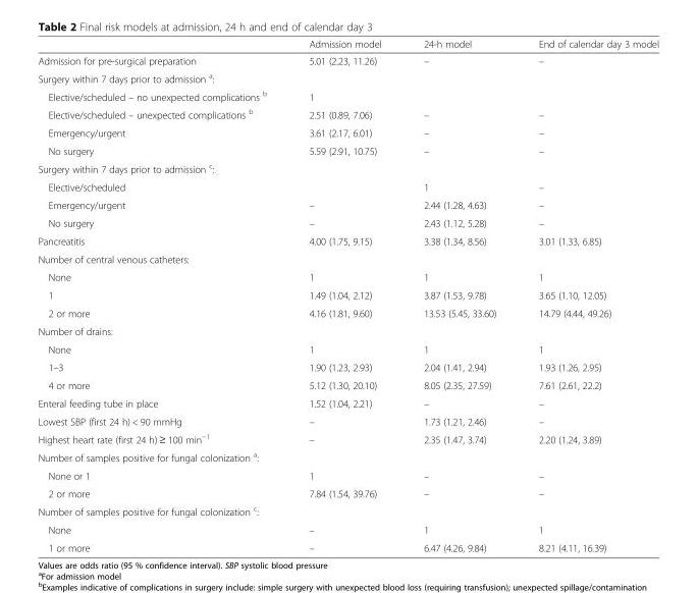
<table><thead><tr><td></td><td>Admission model</td><td>24-h model</td><td>End of calendar day 3 model</td></tr></thead><tbody><tr><td>Admission for pre-surgical preparation</td><td>5.01 (2.23, 11.26)</td><td>–</td><td>–</td></tr><tr><td colspan="4">Surgery within 7 days prior to admission <sup>a</sup>:</td></tr><tr><td>Elective/scheduled – no unexpected complications <sup>b</sup></td><td>1</td><td></td><td></td></tr><tr><td>Elective/scheduled – unexpected complications <sup>b</sup></td><td>2.51 (0.89, 7.06)</td><td>–</td><td>–</td></tr><tr><td>Emergency/urgent</td><td>3.61 (2.17, 6.01)</td><td>–</td><td>–</td></tr><tr><td>No surgery</td><td>5.59 (2.91, 10.75)</td><td>–</td><td>–</td></tr><tr><td colspan="4">Surgery within 7 days prior to admission <sup>c</sup>:</td></tr><tr><td>Elective/scheduled</td><td></td><td>1</td><td>–</td></tr><tr><td>Emergency/urgent</td><td>–</td><td>2.44 (1.28, 4.63)</td><td>–</td></tr><tr><td>No surgery</td><td>–</td><td>2.43 (1.12, 5.28)</td><td>–</td></tr><tr><td>Pancreatitis</td><td>4.00 (1.75, 9.15)</td><td>3.38 (1.34, 8.56)</td><td>3.01 (1.33, 6.85)</td></tr><tr><td colspan="4">Number of central venous catheters:</td></tr><tr><td>None</td><td>1</td><td>1</td><td>1</td></tr><tr><td>1</td><td>1.49 (1.04, 2.12)</td><td>3.87 (1.53, 9.78)</td><td>3.65 (1.10, 12.05)</td></tr><tr><td>2 or more</td><td>4.16 (1.81, 9.60)</td><td>13.53 (5.45, 33.60)</td><td>14.79 (4.44, 49.26)</td></tr><tr><td colspan="4">Number of drains:</td></tr><tr><td>None</td><td>1</td><td>1</td><td>1</td></tr><tr><td>1–3</td><td>1.90 (1.23, 2.93)</td><td>2.04 (1.41, 2.94)</td><td>1.93 (1.26, 2.95)</td></tr><tr><td>4 or more</td><td>5.12 (1.30, 20.10)</td><td>8.05 (2.35, 27.59)</td><td>7.61 (2.61, 22.2)</td></tr><tr><td>Enteral feeding tube in place</td><td>1.52 (1.04, 2.21)</td><td>–</td><td>–</td></tr><tr><td>Lowest SBP (first 24 h) &lt; 90 mmHg</td><td>–</td><td>1.73 (1.21, 2.46)</td><td>–</td></tr><tr><td>Highest heart rate (first 24 h) ≥ 100 min<sup>−1</sup></td><td>–</td><td>2.35 (1.47, 3.74)</td><td>2.20 (1.24, 3.89)</td></tr><tr><td colspan="4">Number of samples positive for fungal colonization <sup>a</sup>:</td></tr><tr><td>None or 1</td><td>1</td><td>–</td><td>–</td></tr><tr><td>2 or more</td><td>7.84 (1.54, 39.76)</td><td>–</td><td>–</td></tr><tr><td colspan="4">Number of samples positive for fungal colonization <sup>c</sup>:</td></tr><tr><td>None</td><td>–</td><td>1</td><td>1</td></tr><tr><td>1 or more</td><td>–</td><td>6.47 (4.26, 9.84)</td><td>8.21 (4.11, 16.39)</td></tr></tbody></table>